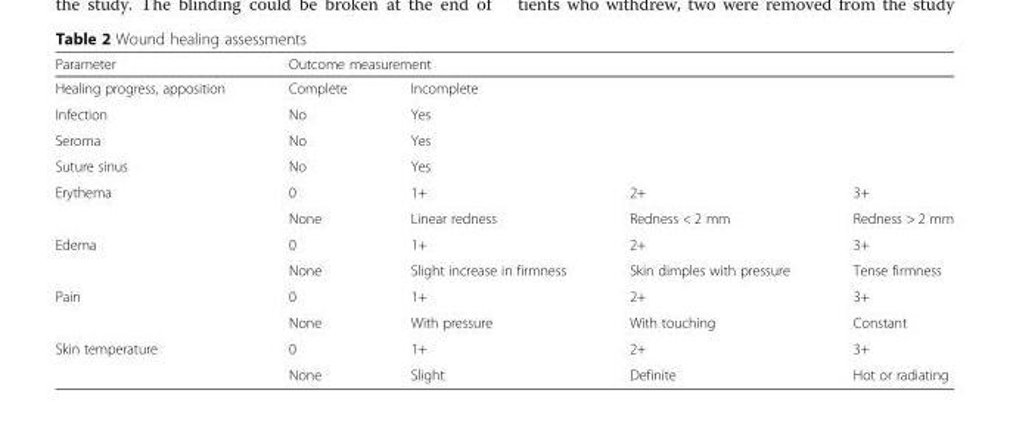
<table><thead><tr><td rowspan="2">Parameter Healing progress, apposition</td><td colspan="4">Outcome measurement</td></tr><tr><td>Complete</td><td>Incomplete</td><td></td><td></td></tr></thead><tbody><tr><td>Infection</td><td>No</td><td>Yes</td><td></td><td></td></tr><tr><td>Seroma</td><td>No</td><td>Yes</td><td></td><td></td></tr><tr><td>Suture sinus</td><td>No</td><td>Yes</td><td></td><td></td></tr><tr><td rowspan="2">Erythema</td><td>0</td><td>1+</td><td>2+</td><td>3+</td></tr><tr><td>None</td><td>Linear redness</td><td>Redness &lt; 2 mm</td><td>Redness &gt; 2 mm</td></tr><tr><td rowspan="2">Edema</td><td>0</td><td>1+</td><td>2+</td><td>3+</td></tr><tr><td>None</td><td>Slight increase in firmness</td><td>Skin dimples with pressure</td><td>Tense firmness</td></tr><tr><td rowspan="2">Pain</td><td>0</td><td>1+</td><td>2+</td><td>3+</td></tr><tr><td>None</td><td>With pressure</td><td>With touching</td><td>Constant</td></tr><tr><td rowspan="2">Skin temperature</td><td>0</td><td>1+</td><td>2+</td><td>3+</td></tr><tr><td>None</td><td>Slight</td><td>Definite</td><td>Hot or radiating</td></tr></tbody></table>